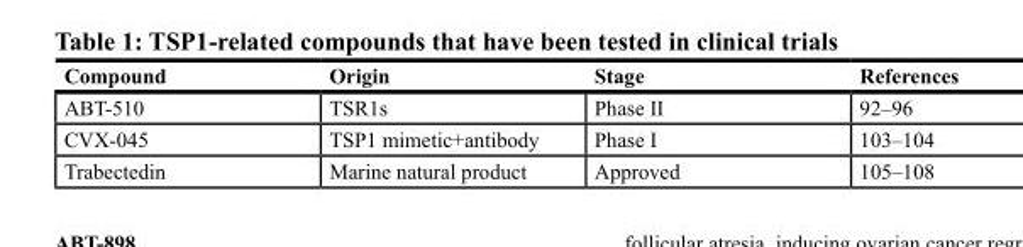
<table><thead><tr><td>Compound</td><td>Origin</td><td>Stage</td><td>References</td></tr></thead><tbody><tr><td>ABT-510</td><td>TSR1s</td><td>Phase II</td><td>92–96</td></tr><tr><td>CVX-045</td><td>TSP1 mimetic+antibody</td><td>Phase I</td><td>103–104</td></tr><tr><td>Trabectedin</td><td>Marine natural product</td><td>Approved</td><td>105–108</td></tr></tbody></table>